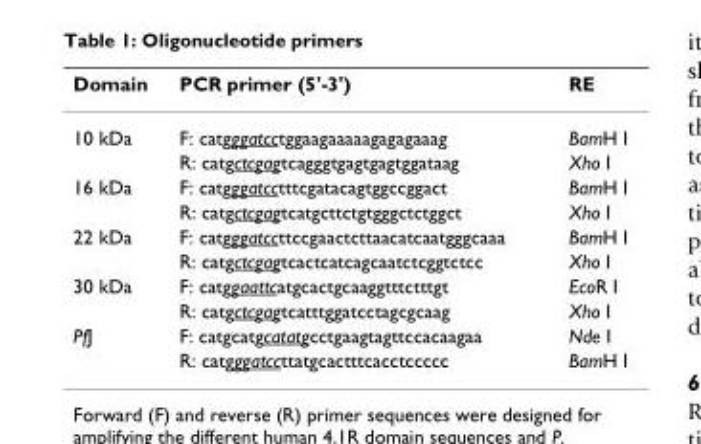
<table><thead><tr><td>Domain</td><td>PCR primer (5&#x27;-3&#x27;)</td><td>RE</td></tr></thead><tbody><tr><td rowspan="2">10 kDa</td><td>F: catgggatcctggaagaaaaagagagaaag</td><td>BamH I</td></tr><tr><td>R: catgctcgagtcagggtgagtgagtggataag</td><td>Xho I</td></tr><tr><td rowspan="2">16 kDa</td><td>F: catgggatcctttcgatacagtggccggact</td><td>BamH I</td></tr><tr><td>R: catgctcgagtcatgcttctgtgggctctggct</td><td>Xho I</td></tr><tr><td rowspan="2">22 kDa</td><td>F: catgggatccttccgaactcttaacatcaatgggcaaa</td><td>BamH I</td></tr><tr><td>R: catgctcgagtcactcatcagcaatctcggtctcc</td><td>Xho I</td></tr><tr><td rowspan="2">30 kDa</td><td>F: catggaattcatgcactgcaaggtttctttgt</td><td>EcoR I</td></tr><tr><td>R: catgctcgagtcatttggatcctagcgcaag</td><td>Xho I</td></tr><tr><td rowspan="2">PfJ</td><td>F: catgcatgcatatgcctgaagtagttccacaagaa</td><td>Nde I</td></tr><tr><td>R: catgggatccttatgcactttcacctccccc</td><td>BamH I</td></tr></tbody></table>